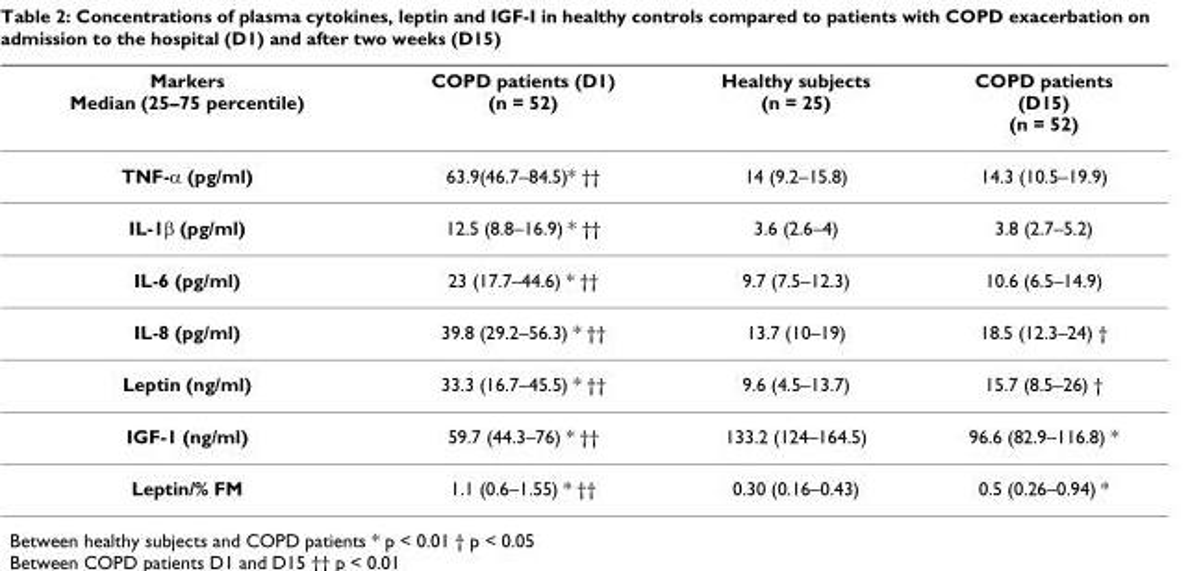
<table><thead><tr><td>Markers Median (25–75 percentile)</td><td>COPD patients (D1) (n = 52)</td><td>Healthy subjects (n = 25)</td><td>COPD patients (D15) (n = 52)</td></tr></thead><tbody><tr><td>TNF-α (pg/ml)</td><td>63.9(46.7–84.5)* ††</td><td>14 (9.2–15.8)</td><td>14.3 (10.5–19.9)</td></tr><tr><td>IL-1β (pg/ml)</td><td>12.5 (8.8–16.9) * ††</td><td>3.6 (2.6–4)</td><td>3.8 (2.7–5.2)</td></tr><tr><td>IL-6 (pg/ml)</td><td>23 (17.7–44.6) * ††</td><td>9.7 (7.5–12.3)</td><td>10.6 (6.5–14.9)</td></tr><tr><td>IL-8 (pg/ml)</td><td>39.8 (29.2–56.3) * ††</td><td>13.7 (10–19)</td><td>18.5 (12.3–24) †</td></tr><tr><td>Leptin (ng/ml)</td><td>33.3 (16.7–45.5) * ††</td><td>9.6 (4.5–13.7)</td><td>15.7 (8.5–26) †</td></tr><tr><td>IGF-1 (ng/ml)</td><td>59.7 (44.3–76) * ††</td><td>133.2 (124–164.5)</td><td>96.6 (82.9–116.8) *</td></tr><tr><td>Leptin/% FM</td><td>1.1 (0.6–1.55) * ††</td><td>0.30 (0.16–0.43)</td><td>0.5 (0.26–0.94) *</td></tr></tbody></table>